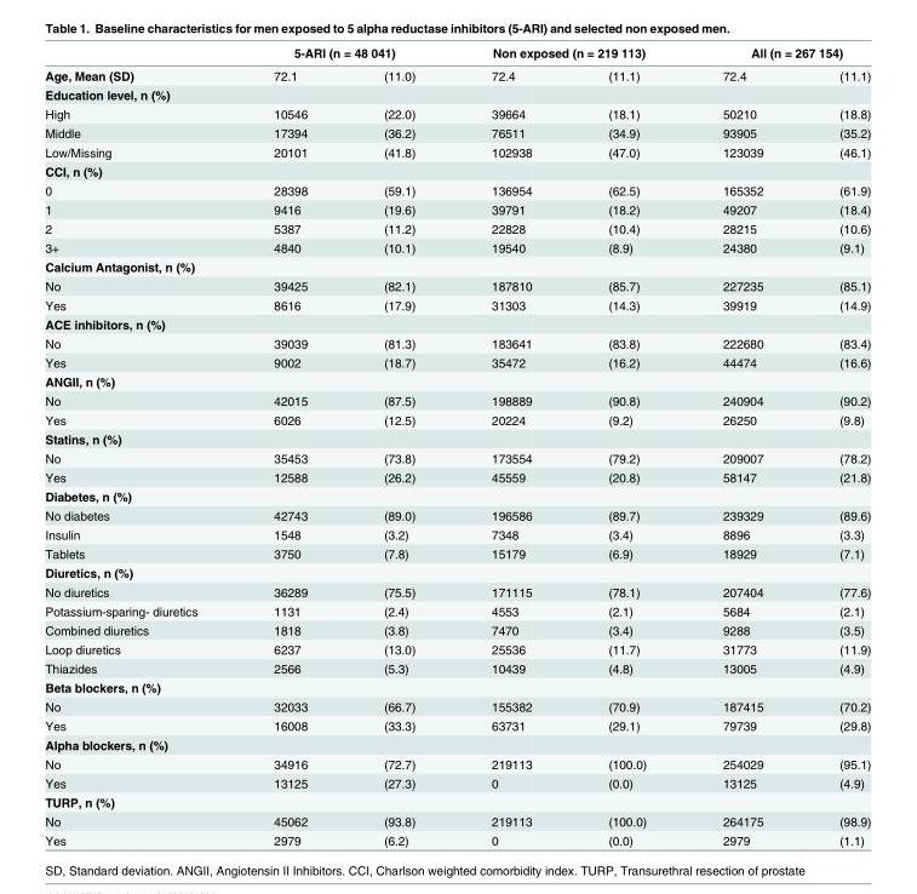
<table><thead><tr><td rowspan="2">Age, Mean (SD)</td><td colspan="2">5-ARI (n = 48 041)</td><td colspan="2">Non exposed (n = 219 113)</td><td colspan="2">All (n = 267 154)</td></tr><tr><td>72.1</td><td>(11.0)</td><td>72.4</td><td>(11.1)</td><td>72.4</td><td>(11.1)</td></tr></thead><tbody><tr><td colspan="7">Education level, n (%)</td></tr><tr><td>High</td><td>10546</td><td>(22.0)</td><td>39664</td><td>(18.1)</td><td>50210</td><td>(18.8)</td></tr><tr><td>Middle</td><td>17394</td><td>(36.2)</td><td>76511</td><td>(34.9)</td><td>93905</td><td>(35.2)</td></tr><tr><td>Low/Missing</td><td>20101</td><td>(41.8)</td><td>102938</td><td>(47.0)</td><td>123039</td><td>(46.1)</td></tr><tr><td colspan="7">CCI, n (%)</td></tr><tr><td>0</td><td>28398</td><td>(59.1)</td><td>136954</td><td>(62.5)</td><td>165352</td><td>(61.9)</td></tr><tr><td>1</td><td>9416</td><td>(19.6)</td><td>39791</td><td>(18.2)</td><td>49207</td><td>(18.4)</td></tr><tr><td>2</td><td>5387</td><td>(11.2)</td><td>22828</td><td>(10.4)</td><td>28215</td><td>(10.6)</td></tr><tr><td>3+</td><td>4840</td><td>(10.1)</td><td>19540</td><td>(8.9)</td><td>24380</td><td>(9.1)</td></tr><tr><td colspan="7">Calcium Antagonist, n (%)</td></tr><tr><td>No</td><td>39425</td><td>(82.1)</td><td>187810</td><td>(85.7)</td><td>227235</td><td>(85.1)</td></tr><tr><td>Yes</td><td>8616</td><td>(17.9)</td><td>31303</td><td>(14.3)</td><td>39919</td><td>(14.9)</td></tr><tr><td colspan="7">ACE inhibitors, n (%)</td></tr><tr><td>No</td><td>39039</td><td>(81.3)</td><td>183641</td><td>(83.8)</td><td>222680</td><td>(83.4)</td></tr><tr><td>Yes</td><td>9002</td><td>(18.7)</td><td>35472</td><td>(16.2)</td><td>44474</td><td>(16.6)</td></tr><tr><td colspan="7">ANGII, n (%)</td></tr><tr><td>No</td><td>42015</td><td>(87.5)</td><td>198889</td><td>(90.8)</td><td>240904</td><td>(90.2)</td></tr><tr><td>Yes</td><td>6026</td><td>(12.5)</td><td>20224</td><td>(9.2)</td><td>26250</td><td>(9.8)</td></tr><tr><td colspan="7">Statins, n (%)</td></tr><tr><td>No</td><td>35453</td><td>(73.8)</td><td>173554</td><td>(79.2)</td><td>209007</td><td>(78.2)</td></tr><tr><td>Yes</td><td>12588</td><td>(26.2)</td><td>45559</td><td>(20.8)</td><td>58147</td><td>(21.8)</td></tr><tr><td colspan="7">Diabetes, n (%)</td></tr><tr><td>No diabetes</td><td>42743</td><td>(89.0)</td><td>196586</td><td>(89.7)</td><td>239329</td><td>(89.6)</td></tr><tr><td>Insulin</td><td>1548</td><td>(3.2)</td><td>7348</td><td>(3.4)</td><td>8896</td><td>(3.3)</td></tr><tr><td>Tablets</td><td>3750</td><td>(7.8)</td><td>15179</td><td>(6.9)</td><td>18929</td><td>(7.1)</td></tr><tr><td colspan="7">Diuretics, n (%)</td></tr><tr><td>No diuretics</td><td>36289</td><td>(75.5)</td><td>171115</td><td>(78.1)</td><td>207404</td><td>(77.6)</td></tr><tr><td>Potassium-sparing- diuretics</td><td>1131</td><td>(2.4)</td><td>4553</td><td>(2.1)</td><td>5684</td><td>(2.1)</td></tr><tr><td>Combined diuretics</td><td>1818</td><td>(3.8)</td><td>7470</td><td>(3.4)</td><td>9288</td><td>(3.5)</td></tr><tr><td>Loop diuretics</td><td>6237</td><td>(13.0)</td><td>25536</td><td>(11.7)</td><td>31773</td><td>(11.9)</td></tr><tr><td>Thiazides</td><td>2566</td><td>(5.3)</td><td>10439</td><td>(4.8)</td><td>13005</td><td>(4.9)</td></tr><tr><td colspan="7">Beta blockers, n (%)</td></tr><tr><td>No</td><td>32033</td><td>(66.7)</td><td>155382</td><td>(70.9)</td><td>187415</td><td>(70.2)</td></tr><tr><td>Yes</td><td>16008</td><td>(33.3)</td><td>63731</td><td>(29.1)</td><td>79739</td><td>(29.8)</td></tr><tr><td colspan="7">Alpha blockers, n (%)</td></tr><tr><td>No</td><td>34916</td><td>(72.7)</td><td>219113</td><td>(100.0)</td><td>254029</td><td>(95.1)</td></tr><tr><td>Yes</td><td>13125</td><td>(27.3)</td><td>0</td><td>(0.0)</td><td>13125</td><td>(4.9)</td></tr><tr><td colspan="7">TURP, n (%)</td></tr><tr><td>No</td><td>45062</td><td>(93.8)</td><td>219113</td><td>(100.0)</td><td>264175</td><td>(98.9)</td></tr><tr><td>Yes</td><td>2979</td><td>(6.2)</td><td>0</td><td>(0.0)</td><td>2979</td><td>(1.1)</td></tr></tbody></table>